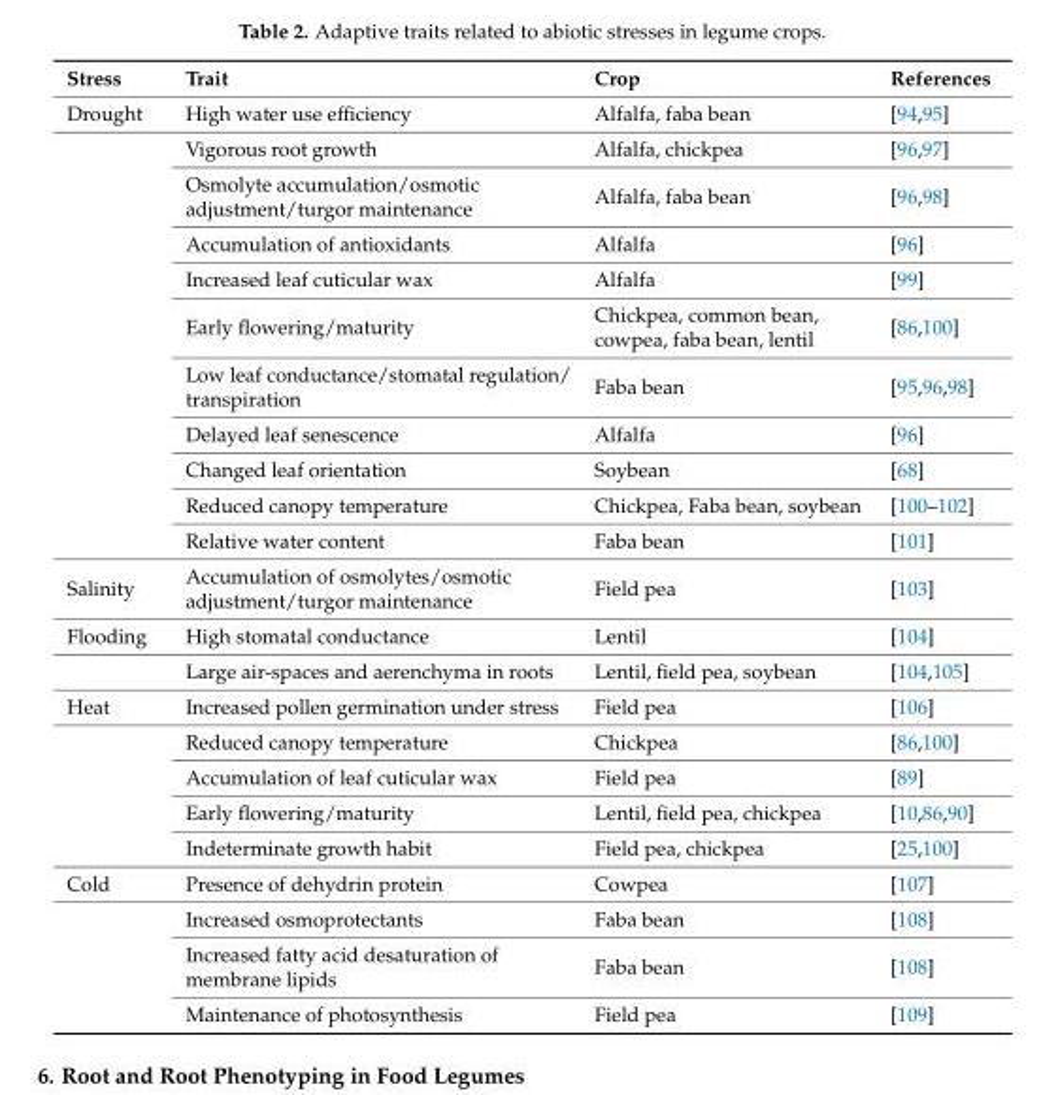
<table><thead><tr><td>Stress</td><td>Trait</td><td>Crop</td><td>References</td></tr></thead><tbody><tr><td rowspan="11">Drought</td><td>High water use efficiency</td><td>Alfalfa, faba bean</td><td>[94,95]</td></tr><tr><td>Vigorous root growth</td><td>Alfalfa, chickpea</td><td>[96,97]</td></tr><tr><td>Osmolyte accumulation/osmotic adjustment/turgor maintenance</td><td>Alfalfa, faba bean</td><td>[96,98]</td></tr><tr><td>Accumulation of antioxidants</td><td>Alfalfa</td><td>[96]</td></tr><tr><td>Increased leaf cuticular wax</td><td>Alfalfa</td><td>[99]</td></tr><tr><td>Early flowering/maturity</td><td>Chickpea, common bean, cowpea, faba bean, lentil</td><td>[86,100]</td></tr><tr><td>Low leaf conductance/stomatal regulation/ transpiration</td><td>Faba bean</td><td>[95,96,98]</td></tr><tr><td>Delayed leaf senescence</td><td>Alfalfa</td><td>[96]</td></tr><tr><td>Changed leaf orientation</td><td>Soybean</td><td>[68]</td></tr><tr><td>Reduced canopy temperature</td><td>Chickpea, Faba bean, soybean</td><td>[100–102]</td></tr><tr><td>Relative water content</td><td>Faba bean</td><td>[101]</td></tr><tr><td>Salinity</td><td>Accumulation of osmolytes/osmotic adjustment/turgor maintenance</td><td>Field pea</td><td>[103]</td></tr><tr><td rowspan="2">Flooding</td><td>High stomatal conductance</td><td>Lentil</td><td>[104]</td></tr><tr><td>Large air-spaces and aerenchyma in roots</td><td>Lentil, field pea, soybean</td><td>[104,105]</td></tr><tr><td rowspan="5">Heat</td><td>Increased pollen germination under stress</td><td>Field pea</td><td>[106]</td></tr><tr><td>Reduced canopy temperature</td><td>Chickpea</td><td>[86,100]</td></tr><tr><td>Accumulation of leaf cuticular wax</td><td>Field pea</td><td>[89]</td></tr><tr><td>Early flowering/maturity</td><td>Lentil, field pea, chickpea</td><td>[10,86,90]</td></tr><tr><td>Indeterminate growth habit</td><td>Field pea, chickpea</td><td>[25,100]</td></tr><tr><td rowspan="4">Cold</td><td>Presence of dehydrin protein</td><td>Cowpea</td><td>[107]</td></tr><tr><td>Increased osmoprotectants</td><td>Faba bean</td><td>[108]</td></tr><tr><td>Increased fatty acid desaturation of membrane lipids</td><td>Faba bean</td><td>[108]</td></tr><tr><td>Maintenance of photosynthesis</td><td>Field pea</td><td>[109]</td></tr></tbody></table>